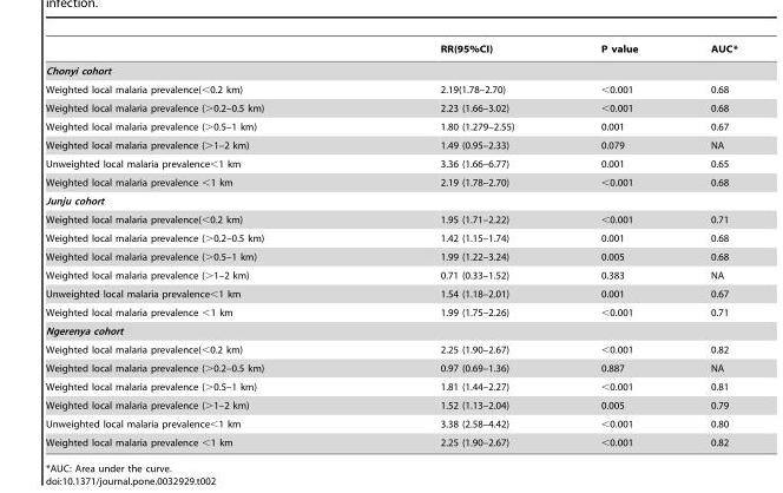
<table><thead><tr><td></td><td>RR(95%CI)</td><td>P value</td><td>AUC*</td></tr></thead><tbody><tr><td colspan="4">Chonyi cohort</td></tr><tr><td>Weighted local malaria prevalence(&lt;0.2 km)</td><td>2.19(1.78–2.70)</td><td>&lt;0.001</td><td>0.68</td></tr><tr><td>Weighted local malaria prevalence (&gt;0.2–0.5 km)</td><td>2.23 (1.66–3.02)</td><td>&lt;0.001</td><td>0.68</td></tr><tr><td>Weighted local malaria prevalence (&gt;0.5–1 km)</td><td>1.80 (1.279–2.55)</td><td>0.001</td><td>0.67</td></tr><tr><td>Weighted local malaria prevalence (&gt;1–2 km)</td><td>1.49 (0.95–2.33)</td><td>0.079</td><td>NA</td></tr><tr><td>Unweighted local malaria prevalence&lt;1 km</td><td>3.36 (1.66–6.77)</td><td>0.001</td><td>0.65</td></tr><tr><td>Weighted local malaria prevalence &lt;1 km</td><td>2.19 (1.78–2.70)</td><td>&lt;0.001</td><td>0.68</td></tr><tr><td colspan="4">Junju cohort</td></tr><tr><td>Weighted local malaria prevalence(&lt;0.2 km)</td><td>1.95 (1.71–2.22)</td><td>&lt;0.001</td><td>0.71</td></tr><tr><td>Weighted local malaria prevalence (&gt;0.2–0.5 km)</td><td>1.42 (1.15–1.74)</td><td>0.001</td><td>0.68</td></tr><tr><td>Weighted local malaria prevalence (&gt;0.5–1 km)</td><td>1.99 (1.22–3.24)</td><td>0.005</td><td>0.68</td></tr><tr><td>Weighted local malaria prevalence (&gt;1–2 km)</td><td>0.71 (0.33–1.52)</td><td>0.383</td><td>NA</td></tr><tr><td>Unweighted local malaria prevalence&lt;1 km</td><td>1.54 (1.18–2.01)</td><td>0.001</td><td>0.67</td></tr><tr><td>Weighted local malaria prevalence &lt;1 km</td><td>1.99 (1.75–2.26)</td><td>&lt;0.001</td><td>0.71</td></tr><tr><td colspan="4">Ngerenya cohort</td></tr><tr><td>Weighted local malaria prevalence(&lt;0.2 km)</td><td>2.25 (1.90–2.67)</td><td>&lt;0.001</td><td>0.82</td></tr><tr><td>Weighted local malaria prevalence (&gt;0.2–0.5 km)</td><td>0.97 (0.69–1.36)</td><td>0.887</td><td>NA</td></tr><tr><td>Weighted local malaria prevalence (&gt;0.5–1 km)</td><td>1.81 (1.44–2.27)</td><td>&lt;0.001</td><td>0.81</td></tr><tr><td>Weighted local malaria prevalence (&gt;1–2 km)</td><td>1.52 (1.13–2.04)</td><td>0.005</td><td>0.79</td></tr><tr><td>Unweighted local malaria prevalence&lt;1 km</td><td>3.38 (2.58–4.42)</td><td>&lt;0.001</td><td>0.80</td></tr><tr><td>Weighted local malaria prevalence &lt;1 km</td><td>2.25 (1.90–2.67)</td><td>&lt;0.001</td><td>0.82</td></tr></tbody></table>